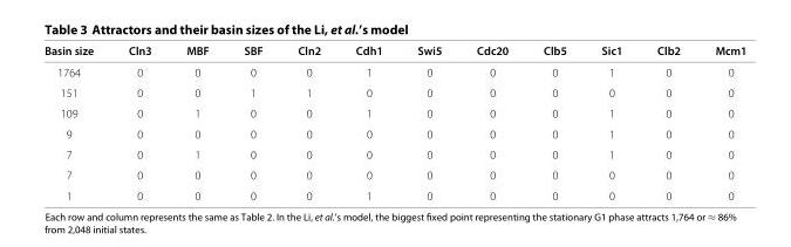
<table><thead><tr><td>Basin size</td><td>Cln3</td><td>MBF</td><td>SBF</td><td>Cln2</td><td>Cdh1</td><td>Swi5</td><td>Cdc20</td><td>Clb5</td><td>Sic1</td><td>Clb2</td><td>Mcm1</td></tr></thead><tbody><tr><td>1764</td><td>0</td><td>0</td><td>0</td><td>0</td><td>1</td><td>0</td><td>0</td><td>0</td><td>1</td><td>0</td><td>0</td></tr><tr><td>151</td><td>0</td><td>0</td><td>1</td><td>1</td><td>0</td><td>0</td><td>0</td><td>0</td><td>0</td><td>0</td><td>0</td></tr><tr><td>109</td><td>0</td><td>1</td><td>0</td><td>0</td><td>1</td><td>0</td><td>0</td><td>0</td><td>1</td><td>0</td><td>0</td></tr><tr><td>9</td><td>0</td><td>0</td><td>0</td><td>0</td><td>0</td><td>0</td><td>0</td><td>0</td><td>1</td><td>0</td><td>0</td></tr><tr><td>7</td><td>0</td><td>1</td><td>0</td><td>0</td><td>0</td><td>0</td><td>0</td><td>0</td><td>1</td><td>0</td><td>0</td></tr><tr><td>7</td><td>0</td><td>0</td><td>0</td><td>0</td><td>0</td><td>0</td><td>0</td><td>0</td><td>0</td><td>0</td><td>0</td></tr><tr><td>1</td><td>0</td><td>0</td><td>0</td><td>0</td><td>1</td><td>0</td><td>0</td><td>0</td><td>0</td><td>0</td><td>0</td></tr></tbody></table>